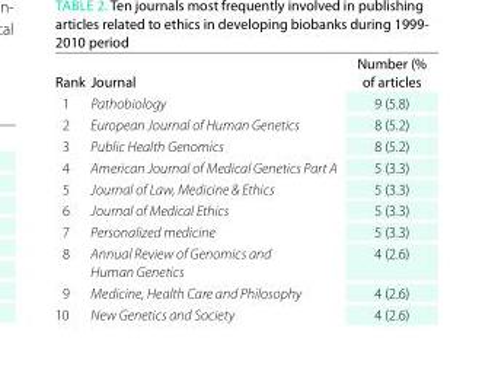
<table><thead><tr><td>Rank</td><td>Journal</td><td>Number (% of articles</td></tr></thead><tbody><tr><td>1</td><td>Pathobiology</td><td>9 (5.8)</td></tr><tr><td>2</td><td>European Journal of Human Genetics</td><td>8 (5.2)</td></tr><tr><td>3</td><td>Public Health Genomics</td><td>8 (5.2)</td></tr><tr><td>4</td><td>American Journal of Medical Genetics Part A</td><td>5 (3.3)</td></tr><tr><td>5</td><td>Journal of Law, Medicine &amp; Ethics</td><td>5 (3.3)</td></tr><tr><td>6</td><td>Journal of Medical Ethics</td><td>5 (3.3)</td></tr><tr><td>7</td><td>Personalized medicine</td><td>5 (3.3)</td></tr><tr><td>8</td><td>Annual Review of Genomics and Human Genetics</td><td>4 (2.6)</td></tr><tr><td>9</td><td>Medicine, Health Care and Philosophy</td><td>4 (2.6)</td></tr><tr><td>10</td><td>New Genetics and Society</td><td>4 (2.6)</td></tr></tbody></table>